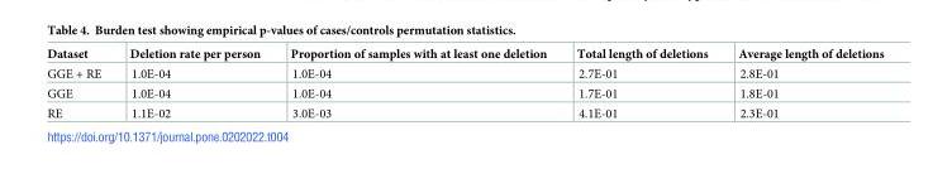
<table><thead><tr><td>Dataset</td><td>Deletion rate per person</td><td>Proportion of samples with at least one deletion</td><td>Total length of deletions</td><td>Average length of deletions</td></tr></thead><tbody><tr><td>GGE + RE</td><td>1.0E-04</td><td>1.0E-04</td><td>2.7E-01</td><td>2.8E-01</td></tr><tr><td>GGE</td><td>1.0E-04</td><td>1.0E-04</td><td>1.7E-01</td><td>1.8E-01</td></tr><tr><td>RE</td><td>1.1E-02</td><td>3.0E-03</td><td>4.1E-01</td><td>2.3E-01</td></tr></tbody></table>